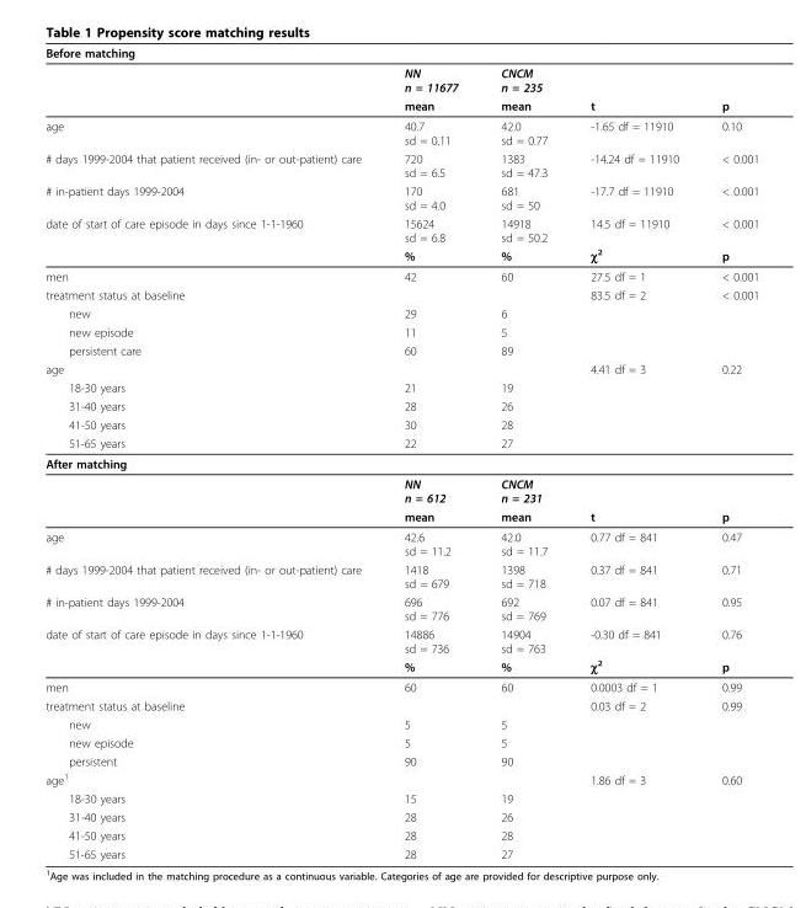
<table><thead><tr><td colspan="5">Before matching</td></tr><tr><td></td><td>NN n = 11677</td><td>CNCM n = 235</td><td></td><td></td></tr></thead><tbody><tr><td></td><td>mean</td><td>mean</td><td>t</td><td>p</td></tr><tr><td>age</td><td>40.7 sd = 0.11</td><td>42.0 sd = 0.77</td><td>-1.65 df = 11910</td><td>0.10</td></tr><tr><td># days 1999-2004 that patient received (in- or out-patient) care</td><td>720 sd = 6.5</td><td>1383 sd = 47.3</td><td>-14.24 df = 11910</td><td>&lt; 0.001</td></tr><tr><td># in-patient days 1999-2004</td><td>170 sd = 4.0</td><td>681 sd = 50</td><td>-17.7 df = 11910</td><td>&lt; 0.001</td></tr><tr><td rowspan="2">date of start of care episode in days since 1-1-1960</td><td>15624 sd = 6.8</td><td>14918 sd = 50.2</td><td>14.5 df = 11910</td><td>&lt; 0.001</td></tr><tr><td>%</td><td>%</td><td>χ<sup>2</sup></td><td>p</td></tr><tr><td>men</td><td>42</td><td>60</td><td>27.5 df = 1</td><td>&lt; 0.001</td></tr><tr><td>treatment status at baseline</td><td></td><td></td><td>83.5 df = 2</td><td>&lt; 0.001</td></tr><tr><td>new</td><td>29</td><td>6</td><td></td><td></td></tr><tr><td>new episode</td><td>11</td><td>5</td><td></td><td></td></tr><tr><td>persistent care</td><td>60</td><td>89</td><td></td><td></td></tr><tr><td>age</td><td></td><td></td><td>4.41 df = 3</td><td>0.22</td></tr><tr><td>18-30 years</td><td>21</td><td>19</td><td></td><td></td></tr><tr><td>31-40 years</td><td>28</td><td>26</td><td></td><td></td></tr><tr><td>41-50 years</td><td>30</td><td>28</td><td></td><td></td></tr><tr><td>51-65 years</td><td>22</td><td>27</td><td></td><td></td></tr><tr><td colspan="5">After matching</td></tr><tr><td></td><td>NN n = 612</td><td>CNCM n = 231</td><td></td><td></td></tr><tr><td></td><td>mean</td><td>mean</td><td>t</td><td>p</td></tr><tr><td>age</td><td>42.6 sd = 11.2</td><td>42.0 sd = 11.7</td><td>0.77 df = 841</td><td>0.47</td></tr><tr><td># days 1999-2004 that patient received (in- or out-patient) care</td><td>1418 sd = 679</td><td>1398 sd = 718</td><td>0.37 df = 841</td><td>0.71</td></tr><tr><td># in-patient days 1999-2004</td><td>696 sd = 776</td><td>692 sd = 769</td><td>0.07 df = 841</td><td>0.95</td></tr><tr><td rowspan="2">date of start of care episode in days since 1-1-1960</td><td>14886 sd = 736</td><td>14904 sd = 763</td><td>-0.30 df = 841</td><td>0.76</td></tr><tr><td>%</td><td>%</td><td>χ<sup>2</sup></td><td>p</td></tr><tr><td>men</td><td>60</td><td>60</td><td>0.0003 df = 1</td><td>0.99</td></tr><tr><td>treatment status at baseline</td><td></td><td></td><td>0.03 df = 2</td><td>0.99</td></tr><tr><td>new</td><td>5</td><td>5</td><td></td><td></td></tr><tr><td>new episode</td><td>5</td><td>5</td><td></td><td></td></tr><tr><td>persistent</td><td>90</td><td>90</td><td></td><td></td></tr><tr><td>age<sup>1</sup></td><td></td><td></td><td>1.86 df = 3</td><td>0.60</td></tr><tr><td>18-30 years</td><td>15</td><td>19</td><td></td><td></td></tr><tr><td>31-40 years</td><td>28</td><td>26</td><td></td><td></td></tr><tr><td>41-50 years</td><td>28</td><td>28</td><td></td><td></td></tr><tr><td>51-65 years</td><td>28</td><td>27</td><td></td><td></td></tr></tbody></table>